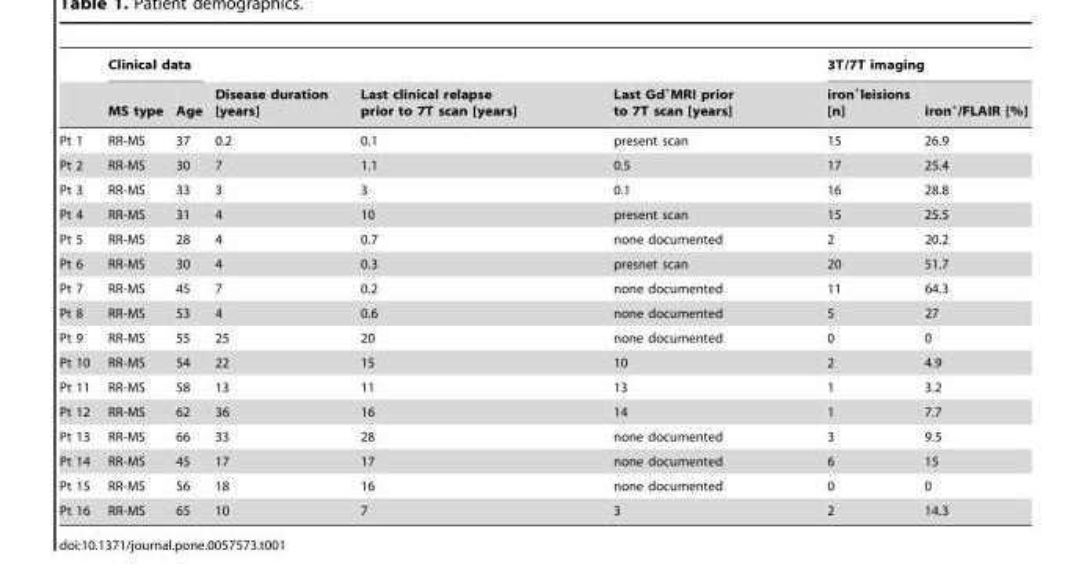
<table><thead><tr><td rowspan="2"></td><td colspan="2">Clinical data</td><td rowspan="2">Disease duration [years]</td><td rowspan="2">Last clinical relapse prior to 7T scan [years]</td><td rowspan="2">Last Gd<sup>+</sup>MRI prior to 7T scan [years]</td><td colspan="2">3T/7T imaging</td></tr><tr><td>MS type</td><td>Age</td><td>iron<sup>+</sup>leisions [n]</td><td>iron<sup>+</sup>/FLAIR [%]</td></tr></thead><tbody><tr><td>Pt 1</td><td>RR-MS</td><td>37</td><td>0.2</td><td>0.1</td><td>present scan</td><td>15</td><td>26.9</td></tr><tr><td>Pt 2</td><td>RR-MS</td><td>30</td><td>7</td><td>1.1</td><td>0.5</td><td>17</td><td>25.4</td></tr><tr><td>Pt 3</td><td>RR-MS</td><td>33</td><td>3</td><td>3</td><td>0.1</td><td>16</td><td>28.8</td></tr><tr><td>Pt 4</td><td>RR-MS</td><td>31</td><td>4</td><td>10</td><td>present scan</td><td>15</td><td>25.5</td></tr><tr><td>Pt 5</td><td>RR-MS</td><td>28</td><td>4</td><td>0.7</td><td>none documented</td><td>2</td><td>20.2</td></tr><tr><td>Pt 6</td><td>RR-MS</td><td>30</td><td>4</td><td>0.3</td><td>presnet scan</td><td>20</td><td>51.7</td></tr><tr><td>Pt 7</td><td>RR-MS</td><td>45</td><td>7</td><td>0.2</td><td>none documented</td><td>11</td><td>64.3</td></tr><tr><td>Pt 8</td><td>RR-MS</td><td>53</td><td>4</td><td>0.6</td><td>none documented</td><td>5</td><td>27</td></tr><tr><td>Pt 9</td><td>RR-MS</td><td>55</td><td>25</td><td>20</td><td>none documented</td><td>0</td><td>0</td></tr><tr><td>Pt 10</td><td>RR-MS</td><td>54</td><td>22</td><td>15</td><td>10</td><td>2</td><td>4.9</td></tr><tr><td>Pt 11</td><td>RR-MS</td><td>58</td><td>13</td><td>11</td><td>13</td><td>1</td><td>3.2</td></tr><tr><td>Pt 12</td><td>RR-MS</td><td>62</td><td>36</td><td>16</td><td>14</td><td>1</td><td>7.7</td></tr><tr><td>Pt 13</td><td>RR-MS</td><td>66</td><td>33</td><td>28</td><td>none documented</td><td>3</td><td>9.5</td></tr><tr><td>Pt 14</td><td>RR-MS</td><td>45</td><td>17</td><td>17</td><td>none documented</td><td>6</td><td>15</td></tr><tr><td>Pt 15</td><td>RR-MS</td><td>56</td><td>18</td><td>16</td><td>none documented</td><td>0</td><td>0</td></tr><tr><td>Pt 16</td><td>RR-MS</td><td>65</td><td>10</td><td>7</td><td>3</td><td>2</td><td>14.3</td></tr></tbody></table>